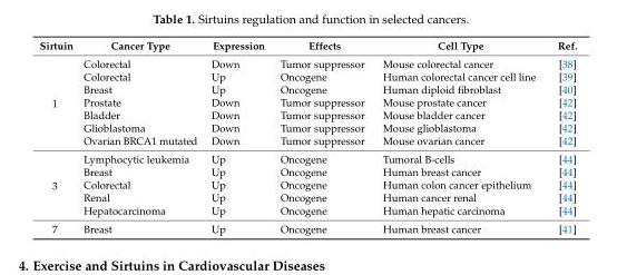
<table><thead><tr><td>Sirtuin</td><td>Cancer Type</td><td>Expression</td><td>Effects</td><td>Cell Type</td><td>Ref.</td></tr></thead><tbody><tr><td rowspan="7">1</td><td>Colorectal</td><td>Down</td><td>Tumor suppressor</td><td>Mouse colorectal cancer</td><td>[38]</td></tr><tr><td>Colorectal</td><td>Up</td><td>Oncogene</td><td>Human colorectal cancer cell line</td><td>[39]</td></tr><tr><td>Breast</td><td>Up</td><td>Oncogene</td><td>Human diploid fibroblast</td><td>[40]</td></tr><tr><td>Prostate</td><td>Down</td><td>Tumor suppressor</td><td>Mouse prostate cancer</td><td>[42]</td></tr><tr><td>Bladder</td><td>Down</td><td>Tumor suppressor</td><td>Mouse bladder cancer</td><td>[42]</td></tr><tr><td>Glioblastoma</td><td>Down</td><td>Tumor suppressor</td><td>Mouse glioblastoma</td><td>[42]</td></tr><tr><td>Ovarian BRCA1 mutated</td><td>Down</td><td>Tumor suppressor</td><td>Mouse ovarian cancer</td><td>[42]</td></tr><tr><td rowspan="5">3</td><td>Lymphocytic leukemia</td><td>Up</td><td>Oncogene</td><td>Tumoral B-cells</td><td>[44]</td></tr><tr><td>Breast</td><td>Up</td><td>Oncogene</td><td>Human breast cancer</td><td>[44]</td></tr><tr><td>Colorectal</td><td>Up</td><td>Oncogene</td><td>Human colon cancer epithelium</td><td>[44]</td></tr><tr><td>Renal</td><td>Up</td><td>Oncogene</td><td>Human cancer renal</td><td>[44]</td></tr><tr><td>Hepatocarcinoma</td><td>Up</td><td>Oncogene</td><td>Human hepatic carcinoma</td><td>[44]</td></tr><tr><td>7</td><td>Breast</td><td>Up</td><td>Oncogene</td><td>Human breast cancer</td><td>[41]</td></tr></tbody></table>